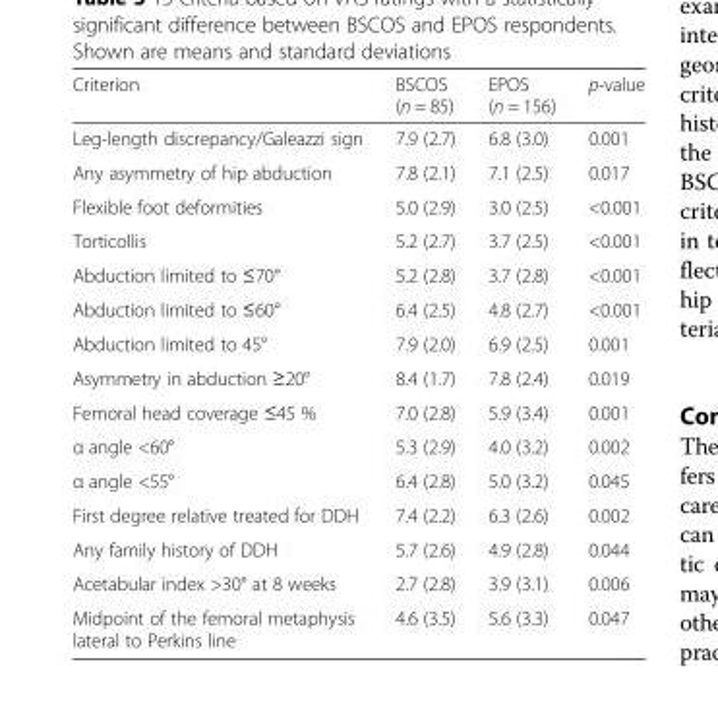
<table><thead><tr><td>Criterion</td><td>BSCOS (n = 85)</td><td>EPOS (n = 156)</td><td>p-value</td></tr></thead><tbody><tr><td>Leg-length discrepancy/Galeazzi sign</td><td>7.9 (2.7)</td><td>6.8 (3.0)</td><td>0.001</td></tr><tr><td>Any asymmetry of hip abduction</td><td>7.8 (2.1)</td><td>7.1 (2.5)</td><td>0.017</td></tr><tr><td>Flexible foot deformities</td><td>5.0 (2.9)</td><td>3.0 (2.5)</td><td>&lt;0.001</td></tr><tr><td>Torticollis</td><td>5.2 (2.7)</td><td>3.7 (2.5)</td><td>&lt;0.001</td></tr><tr><td>Abduction limited to ≤70°</td><td>5.2 (2.8)</td><td>3.7 (2.8)</td><td>&lt;0.001</td></tr><tr><td>Abduction limited to ≤60°</td><td>6.4 (2.5)</td><td>4.8 (2.7)</td><td>&lt;0.001</td></tr><tr><td>Abduction limited to 45°</td><td>7.9 (2.0)</td><td>6.9 (2.5)</td><td>0.001</td></tr><tr><td>Asymmetry in abduction ≥20°</td><td>8.4 (1.7)</td><td>7.8 (2.4)</td><td>0.019</td></tr><tr><td>Femoral head coverage ≤45 %</td><td>7.0 (2.8)</td><td>5.9 (3.4)</td><td>0.001</td></tr><tr><td>α angle &lt;60°</td><td>5.3 (2.9)</td><td>4.0 (3.2)</td><td>0.002</td></tr><tr><td>α angle &lt;55°</td><td>6.4 (2.8)</td><td>5.0 (3.2)</td><td>0.045</td></tr><tr><td>First degree relative treated for DDH</td><td>7.4 (2.2)</td><td>6.3 (2.6)</td><td>0.002</td></tr><tr><td>Any family history of DDH</td><td>5.7 (2.6)</td><td>4.9 (2.8)</td><td>0.044</td></tr><tr><td>Acetabular index &gt;30° at 8 weeks</td><td>2.7 (2.8)</td><td>3.9 (3.1)</td><td>0.006</td></tr><tr><td>Midpoint of the femoral metaphysis lateral to Perkins line</td><td>4.6 (3.5)</td><td>5.6 (3.3)</td><td>0.047</td></tr></tbody></table>